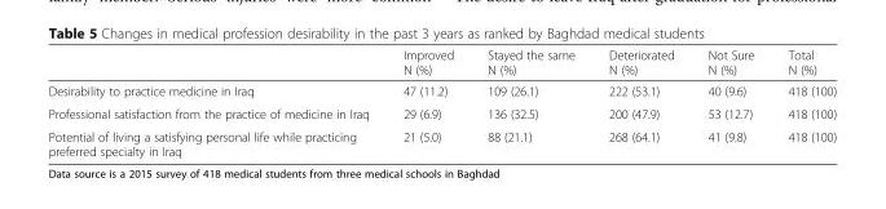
<table><thead><tr><td></td><td>Improved N (%)</td><td>Stayed the same N (%)</td><td>Deteriorated N (%)</td><td>Not Sure N (%)</td><td>Total N (%)</td></tr></thead><tbody><tr><td>Desirability to practice medicine in Iraq</td><td>47 (11.2)</td><td>109 (26.1)</td><td>222 (53.1)</td><td>40 (9.6)</td><td>418 (100)</td></tr><tr><td>Professional satisfaction from the practice of medicine in Iraq</td><td>29 (6.9)</td><td>136 (32.5)</td><td>200 (47.9)</td><td>53 (12.7)</td><td>418 (100)</td></tr><tr><td>Potential of living a satisfying personal life while practicing preferred specialty in Iraq</td><td>21 (5.0)</td><td>88 (21.1)</td><td>268 (64.1)</td><td>41 (9.8)</td><td>418 (100)</td></tr></tbody></table>